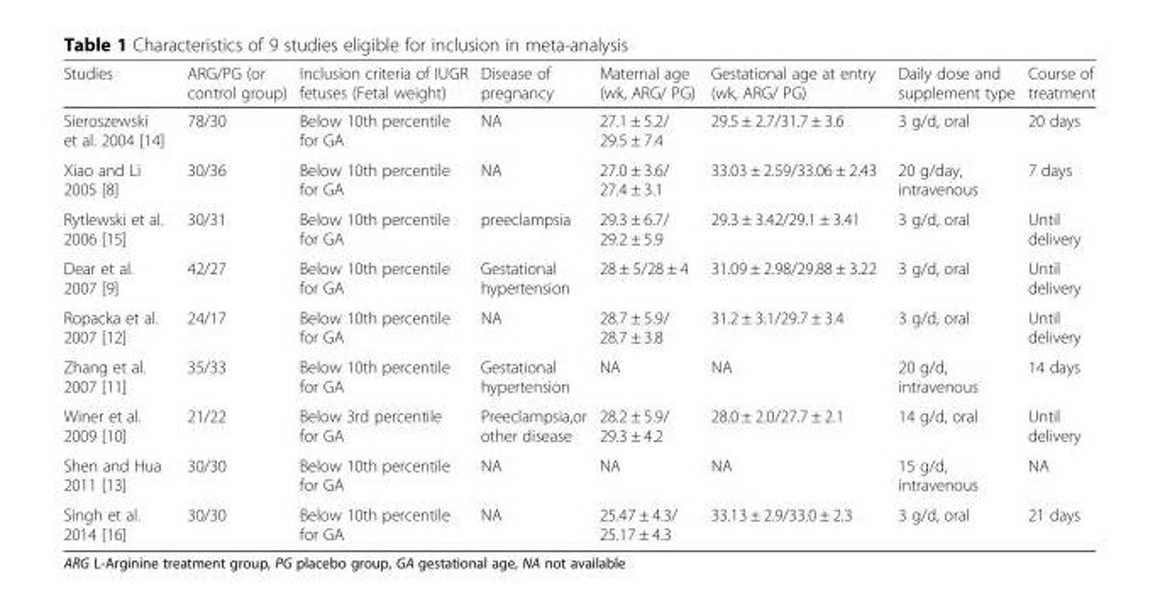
<table><thead><tr><td>Studies</td><td>ARG/PG (or control group)</td><td>Inclusion criteria of IUGR fetuses (Fetal weight)</td><td>Disease of pregnancy</td><td>Maternal age (wk, ARG/ PG)</td><td>Gestational age at entry (wk, ARG/ PG)</td><td>Daily dose and supplement type</td><td>Course of treatment</td></tr></thead><tbody><tr><td>Sieroszewski et al. 2004 [14]</td><td>78/30</td><td>Below 10th percentile for GA</td><td>NA</td><td>27.1 ± 5.2/ 29.5 ± 7.4</td><td>29.5 ± 2.7/31.7 ± 3.6</td><td>3 g/d, oral</td><td>20 days</td></tr><tr><td>Xiao and Li 2005 [8]</td><td>30/36</td><td>Below 10th percentile for GA</td><td>NA</td><td>27.0 ± 3.6/ 27.4 ± 3.1</td><td>33.03 ± 2.59/33.06 ± 2.43</td><td>20 g/day, intravenous</td><td>7 days</td></tr><tr><td>Rytlewski et al. 2006 [15]</td><td>30/31</td><td>Below 10th percentile for GA</td><td>preeclampsia</td><td>29.3 ± 6.7/ 29.2 ± 5.9</td><td>29.3 ± 3.42/29.1 ± 3.41</td><td>3 g/d, oral</td><td>Until delivery</td></tr><tr><td>Dear et al. 2007 [9]</td><td>42/27</td><td>Below 10th percentile for GA</td><td>Gestational hypertension</td><td>28 ± 5/28 ± 4</td><td>31.09 ± 2.98/29.88 ± 3.22</td><td>3 g/d, oral</td><td>Until delivery</td></tr><tr><td>Ropacka et al. 2007 [12]</td><td>24/17</td><td>Below 10th percentile for GA</td><td>NA</td><td>28.7 ± 5.9/ 28.7 ± 3.8</td><td>31.2 ± 3.1/29.7 ± 3.4</td><td>3 g/d, oral</td><td>Until delivery</td></tr><tr><td>Zhang et al. 2007 [11]</td><td>35/33</td><td>Below 10th percentile for GA</td><td>Gestational hypertension</td><td>NA</td><td>NA</td><td>20 g/d, intravenous</td><td>14 days</td></tr><tr><td>Winer et al. 2009 [10]</td><td>21/22</td><td>Below 3rd percentile for GA</td><td>Preeclampsia,or other disease</td><td>28.2 ± 5.9/ 29.3 ± 4.2</td><td>28.0 ± 2.0/27.7 ± 2.1</td><td>14 g/d, oral</td><td>Until delivery</td></tr><tr><td>Shen and Hua 2011 [13]</td><td>30/30</td><td>Below 10th percentile for GA</td><td>NA</td><td>NA</td><td>NA</td><td>15 g/d, intravenous</td><td>NA</td></tr><tr><td>Singh et al. 2014 [16]</td><td>30/30</td><td>Below 10th percentile for GA</td><td>NA</td><td>25.47 ± 4.3/ 25.17 ± 4.3</td><td>33.13 ± 2.9/33.0 ± 2.3</td><td>3 g/d, oral</td><td>21 days</td></tr></tbody></table>